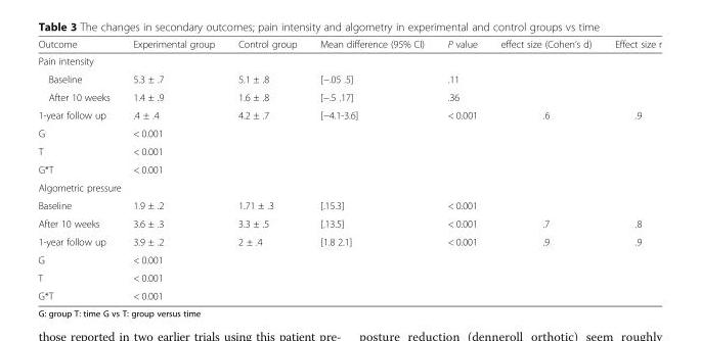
<table><thead><tr><td>Outcome</td><td>Experimental group</td><td>Control group</td><td>Mean difference (95% CI)</td><td>P value</td><td>effect size (Cohen’s d)</td><td>Effect size r</td></tr></thead><tbody><tr><td colspan="7">Pain intensity</td></tr><tr><td>Baseline</td><td>5.3 ± .7</td><td>5.1 ± .8</td><td>[−.05 .5]</td><td>.11</td><td></td><td></td></tr><tr><td>After 10 weeks</td><td>1.4 ± .9</td><td>1.6 ± .8</td><td>[−.5 .17]</td><td>.36</td><td></td><td></td></tr><tr><td>1-year follow up</td><td>.4 ± .4</td><td>4.2 ± .7</td><td>[−4.1-3.6]</td><td>&lt; 0.001</td><td>.6</td><td>.9</td></tr><tr><td>G</td><td colspan="2">&lt; 0.001</td><td rowspan="3" colspan="4"></td></tr><tr><td>T</td><td colspan="2">&lt; 0.001</td></tr><tr><td>G*T</td><td colspan="2">&lt; 0.001</td></tr><tr><td colspan="7">Algometric pressure</td></tr><tr><td>Baseline</td><td>1.9 ± .2</td><td>1.71 ± .3</td><td>[.15.3]</td><td>&lt; 0.001</td><td></td><td></td></tr><tr><td>After 10 weeks</td><td>3.6 ± .3</td><td>3.3 ± .5</td><td>[.13.5]</td><td>&lt; 0.001</td><td>.7</td><td>.8</td></tr><tr><td>1-year follow up</td><td>3.9 ± .2</td><td>2 ± .4</td><td>[1.8 2.1]</td><td>&lt; 0.001</td><td>.9</td><td>.9</td></tr><tr><td>G</td><td colspan="2">&lt; 0.001</td><td rowspan="3" colspan="4"></td></tr><tr><td>T</td><td colspan="2">&lt; 0.001</td></tr><tr><td>G*T</td><td colspan="2">&lt; 0.001</td></tr></tbody></table>